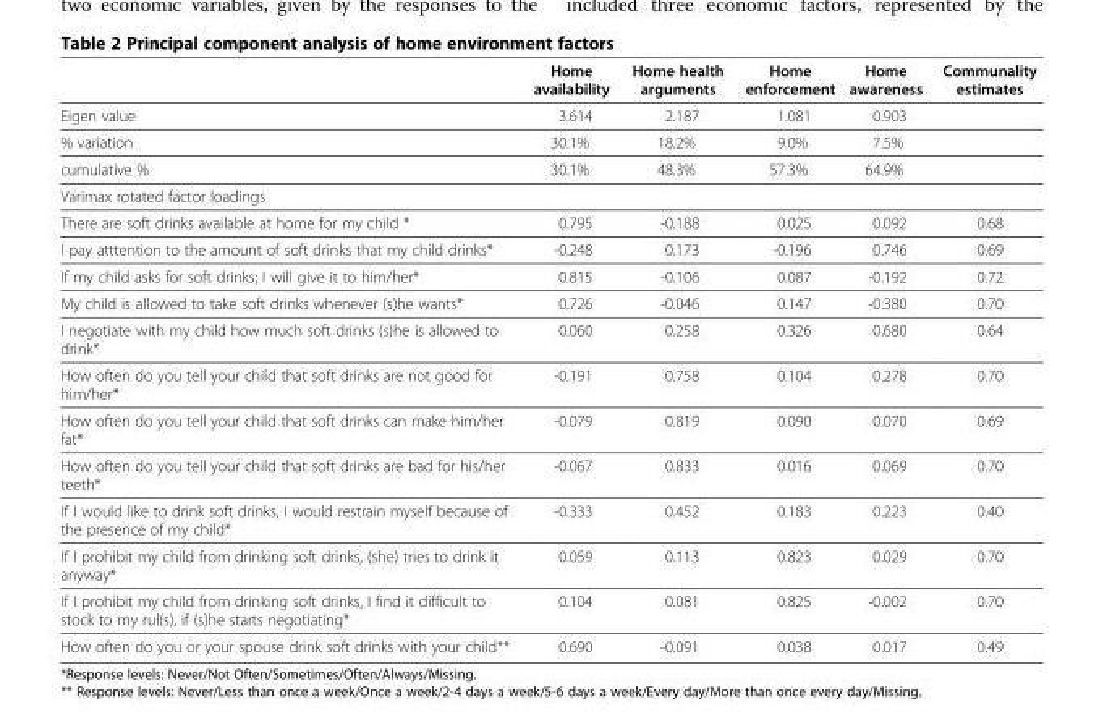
<table><thead><tr><td></td><td>Home availability</td><td>Home health arguments</td><td>Home enforcement</td><td>Home awareness</td><td>Communality estimates</td></tr></thead><tbody><tr><td>Eigen value</td><td>3.614</td><td>2.187</td><td>1.081</td><td>0.903</td><td></td></tr><tr><td>% variation</td><td>30.1%</td><td>18.2%</td><td>9.0%</td><td>7.5%</td><td></td></tr><tr><td>cumulative %</td><td>30.1%</td><td>48.3%</td><td>57.3%</td><td>64.9%</td><td></td></tr><tr><td colspan="6">Varimax rotated factor loadings</td></tr><tr><td>There are soft drinks available at home for my child *</td><td>0.795</td><td>-0.188</td><td>0.025</td><td>0.092</td><td>0.68</td></tr><tr><td>I pay atttention to the amount of soft drinks that my child drinks*</td><td>-0.248</td><td>0.173</td><td>-0.196</td><td>0.746</td><td>0.69</td></tr><tr><td>If my child asks for soft drinks; I will give it to him/her*</td><td>0.815</td><td>-0.106</td><td>0.087</td><td>-0.192</td><td>0.72</td></tr><tr><td>My child is allowed to take soft drinks whenever (s)he wants*</td><td>0.726</td><td>-0.046</td><td>0.147</td><td>-0.380</td><td>0.70</td></tr><tr><td>I negotiate with my child how much soft drinks (s)he is allowed to drink*</td><td>0.060</td><td>0.258</td><td>0.326</td><td>0.680</td><td>0.64</td></tr><tr><td>How often do you tell your child that soft drinks are not good for him/her*</td><td>-0.191</td><td>0.758</td><td>0.104</td><td>0.278</td><td>0.70</td></tr><tr><td>How often do you tell your child that soft drinks can make him/her fat*</td><td>-0.079</td><td>0.819</td><td>0.090</td><td>0.070</td><td>0.69</td></tr><tr><td>How often do you tell your child that soft drinks are bad for his/her teeth*</td><td>-0.067</td><td>0.833</td><td>0.016</td><td>0.069</td><td>0.70</td></tr><tr><td>If I would like to drink soft drinks, I would restrain myself because of the presence of my child*</td><td>-0.333</td><td>0.452</td><td>0.183</td><td>0.223</td><td>0.40</td></tr><tr><td>If I prohibit my child from drinking soft drinks, (she) tries to drink it anyway*</td><td>0.059</td><td>0.113</td><td>0.823</td><td>0.029</td><td>0.70</td></tr><tr><td>If I prohibit my child from drinking soft drinks, I find it difficult to stock to my rul(s), if (s)he starts negotiating*</td><td>0.104</td><td>0.081</td><td>0.825</td><td>-0.002</td><td>0.70</td></tr><tr><td>How often do you or your spouse drink soft drinks with your child**</td><td>0.690</td><td>-0.091</td><td>0.038</td><td>0.017</td><td>0.49</td></tr></tbody></table>